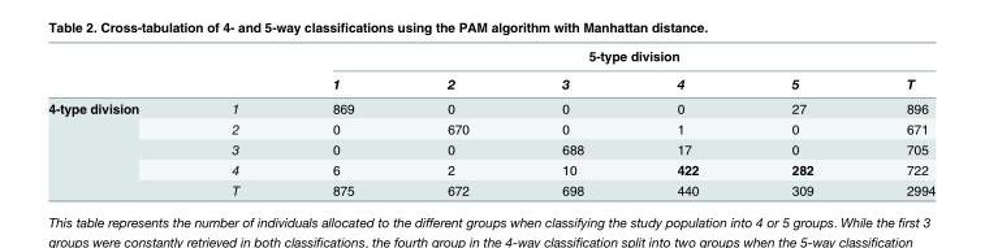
<table><thead><tr><td rowspan="2"></td><td rowspan="2"></td><td colspan="6">5-type division</td></tr><tr><td>1</td><td>2</td><td>3</td><td>4</td><td>5</td><td>T</td></tr></thead><tbody><tr><td rowspan="5">4-type division</td><td>1</td><td>869</td><td>0</td><td>0</td><td>0</td><td>27</td><td>896</td></tr><tr><td>2</td><td>0</td><td>670</td><td>0</td><td>1</td><td>0</td><td>671</td></tr><tr><td>3</td><td>0</td><td>0</td><td>688</td><td>17</td><td>0</td><td>705</td></tr><tr><td>4</td><td>6</td><td>2</td><td>10</td><td>422</td><td>282</td><td>722</td></tr><tr><td>T</td><td>875</td><td>672</td><td>698</td><td>440</td><td>309</td><td>2994</td></tr></tbody></table>